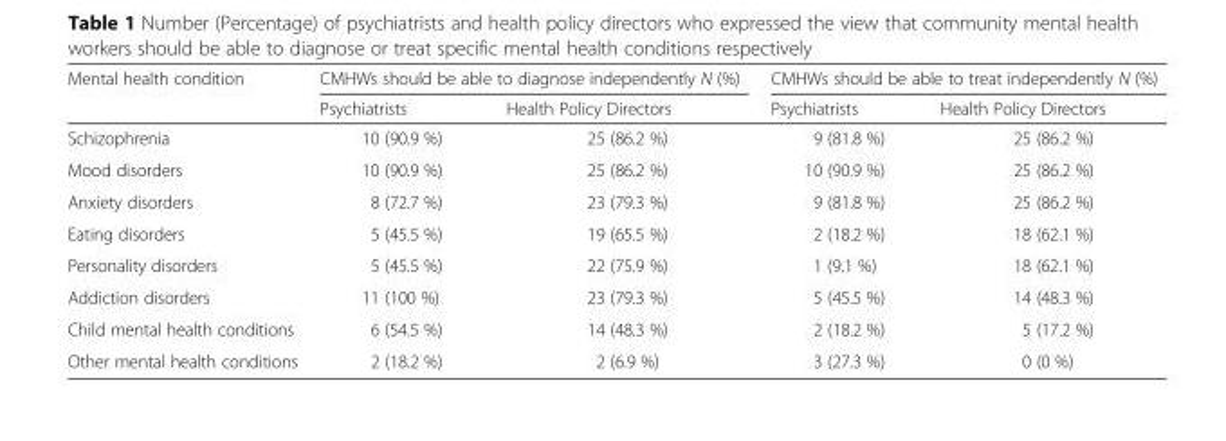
<table><thead><tr><td rowspan="2">Mental health condition</td><td colspan="2">CMHWs should be able to diagnose independently N (%)</td><td colspan="2">CMHWs should be able to treat independently N (%)</td></tr><tr><td>Psychiatrists</td><td>Health Policy Directors</td><td>Psychiatrists</td><td>Health Policy Directors</td></tr></thead><tbody><tr><td>Schizophrenia</td><td>10 (90.9 %)</td><td>25 (86.2 %)</td><td>9 (81.8 %)</td><td>25 (86.2 %)</td></tr><tr><td>Mood disorders</td><td>10 (90.9 %)</td><td>25 (86.2 %)</td><td>10 (90.9 %)</td><td>25 (86.2 %)</td></tr><tr><td>Anxiety disorders</td><td>8 (72.7 %)</td><td>23 (79.3 %)</td><td>9 (81.8 %)</td><td>25 (86.2 %)</td></tr><tr><td>Eating disorders</td><td>5 (45.5 %)</td><td>19 (65.5 %)</td><td>2 (18.2 %)</td><td>18 (62.1 %)</td></tr><tr><td>Personality disorders</td><td>5 (45.5 %)</td><td>22 (75.9 %)</td><td>1 (9.1 %)</td><td>18 (62.1 %)</td></tr><tr><td>Addiction disorders</td><td>11 (100 %)</td><td>23 (79.3 %)</td><td>5 (45.5 %)</td><td>14 (48.3 %)</td></tr><tr><td>Child mental health conditions</td><td>6 (54.5 %)</td><td>14 (48.3 %)</td><td>2 (18.2 %)</td><td>5 (17.2 %)</td></tr><tr><td>Other mental health conditions</td><td>2 (18.2 %)</td><td>2 (6.9 %)</td><td>3 (27.3 %)</td><td>0 (0 %)</td></tr></tbody></table>